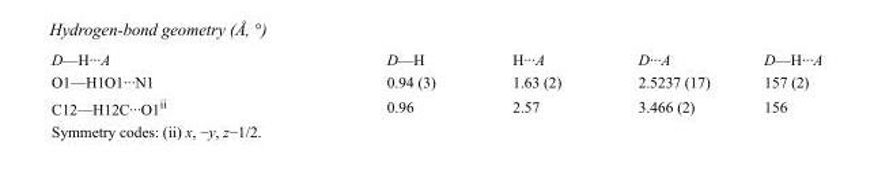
<table><tbody><tr><td>D—H···A</td><td>D—H</td><td>H···A</td><td>D···A</td><td>D—H···A</td></tr><tr><td>O1—H1O1···N1</td><td>0.94 (3)</td><td>1.63 (2)</td><td>2.5237 (17)</td><td>157 (2)</td></tr><tr><td>C12—H12C···O1<sup>ii</sup></td><td>0.96</td><td>2.57</td><td>3.466 (2)</td><td>156</td></tr></tbody></table>